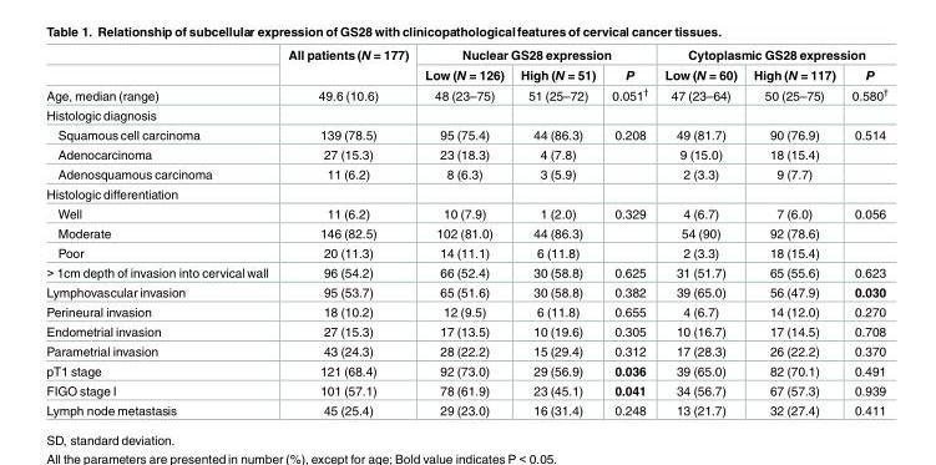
<table><thead><tr><td rowspan="2"></td><td rowspan="2">All patients (N = 177)</td><td colspan="3">Nuclear GS28 expression</td><td colspan="3">Cytoplasmic GS28 expression</td></tr><tr><td>Low (N = 126)</td><td>High (N = 51)</td><td>P</td><td>Low (N = 60)</td><td>High (N = 117)</td><td>P</td></tr></thead><tbody><tr><td>Age, median (range)</td><td>49.6 (10.6)</td><td>48 (23–75)</td><td>51 (25–72)</td><td>0.051<sup>†</sup></td><td>47 (23–64)</td><td>50 (25–75)</td><td>0.580<sup>†</sup></td></tr><tr><td colspan="8">Histologic diagnosis</td></tr><tr><td>Squamous cell carcinoma</td><td>139 (78.5)</td><td>95 (75.4)</td><td>44 (86.3)</td><td>0.208</td><td>49 (81.7)</td><td>90 (76.9)</td><td>0.514</td></tr><tr><td>Adenocarcinoma</td><td>27 (15.3)</td><td>23 (18.3)</td><td>4 (7.8)</td><td></td><td>9 (15.0)</td><td>18 (15.4)</td><td></td></tr><tr><td>Adenosquamous carcinoma</td><td>11 (6.2)</td><td>8 (6.3)</td><td>3 (5.9)</td><td></td><td>2 (3.3)</td><td>9 (7.7)</td><td></td></tr><tr><td colspan="8">Histologic differentiation</td></tr><tr><td>Well</td><td>11 (6.2)</td><td>10 (7.9)</td><td>1 (2.0)</td><td>0.329</td><td>4 (6.7)</td><td>7 (6.0)</td><td>0.056</td></tr><tr><td>Moderate</td><td>146 (82.5)</td><td>102 (81.0)</td><td>44 (86.3)</td><td></td><td>54 (90)</td><td>92 (78.6)</td><td></td></tr><tr><td>Poor</td><td>20 (11.3)</td><td>14 (11.1)</td><td>6 (11.8)</td><td></td><td>2 (3.3)</td><td>18 (15.4)</td><td></td></tr><tr><td>&gt; 1cm depth of invasion into cervical wall</td><td>96 (54.2)</td><td>66 (52.4)</td><td>30 (58.8)</td><td>0.625</td><td>31 (51.7)</td><td>65 (55.6)</td><td>0.623</td></tr><tr><td>Lymphovascular invasion</td><td>95 (53.7)</td><td>65 (51.6)</td><td>30 (58.8)</td><td>0.382</td><td>39 (65.0)</td><td>56 (47.9)</td><td>0.030</td></tr><tr><td>Perineural invasion</td><td>18 (10.2)</td><td>12 (9.5)</td><td>6 (11.8)</td><td>0.655</td><td>4 (6.7)</td><td>14 (12.0)</td><td>0.270</td></tr><tr><td>Endometrial invasion</td><td>27 (15.3)</td><td>17 (13.5)</td><td>10 (19.6)</td><td>0.305</td><td>10 (16.7)</td><td>17 (14.5)</td><td>0.708</td></tr><tr><td>Parametrial invasion</td><td>43 (24.3)</td><td>28 (22.2)</td><td>15 (29.4)</td><td>0.312</td><td>17 (28.3)</td><td>26 (22.2)</td><td>0.370</td></tr><tr><td>pT1 stage</td><td>121 (68.4)</td><td>92 (73.0)</td><td>29 (56.9)</td><td>0.036</td><td>39 (65.0)</td><td>82 (70.1)</td><td>0.491</td></tr><tr><td>FIGO stage I</td><td>101 (57.1)</td><td>78 (61.9)</td><td>23 (45.1)</td><td>0.041</td><td>34 (56.7)</td><td>67 (57.3)</td><td>0.939</td></tr><tr><td>Lymph node metastasis</td><td>45 (25.4)</td><td>29 (23.0)</td><td>16 (31.4)</td><td>0.248</td><td>13 (21.7)</td><td>32 (27.4)</td><td>0.411</td></tr></tbody></table>